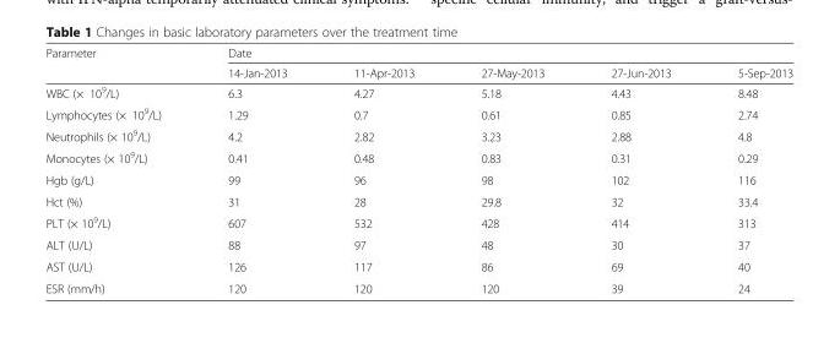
<table><thead><tr><td rowspan="2">Parameter</td><td colspan="5">Date</td></tr><tr><td>14-Jan-2013</td><td>11-Apr-2013</td><td>27-May-2013</td><td>27-Jun-2013</td><td>5-Sep-2013</td></tr></thead><tbody><tr><td>WBC (× 10<sup>9</sup>/L)</td><td>6.3</td><td>4.27</td><td>5.18</td><td>4.43</td><td>8.48</td></tr><tr><td>Lymphocytes (× 10<sup>9</sup>/L)</td><td>1.29</td><td>0.7</td><td>0.61</td><td>0.85</td><td>2.74</td></tr><tr><td>Neutrophils (× 10<sup>9</sup>/L)</td><td>4.2</td><td>2.82</td><td>3.23</td><td>2.88</td><td>4.8</td></tr><tr><td>Monocytes (× 10<sup>9</sup>/L)</td><td>0.41</td><td>0.48</td><td>0.83</td><td>0.31</td><td>0.29</td></tr><tr><td>Hgb (g/L)</td><td>99</td><td>96</td><td>98</td><td>102</td><td>116</td></tr><tr><td>Hct (%)</td><td>31</td><td>28</td><td>29.8</td><td>32</td><td>33.4</td></tr><tr><td>PLT (× 10<sup>9</sup>/L)</td><td>607</td><td>532</td><td>428</td><td>414</td><td>313</td></tr><tr><td>ALT (U/L)</td><td>88</td><td>97</td><td>48</td><td>30</td><td>37</td></tr><tr><td>AST (U/L)</td><td>126</td><td>117</td><td>86</td><td>69</td><td>40</td></tr><tr><td>ESR (mm/h)</td><td>120</td><td>120</td><td>120</td><td>39</td><td>24</td></tr></tbody></table>